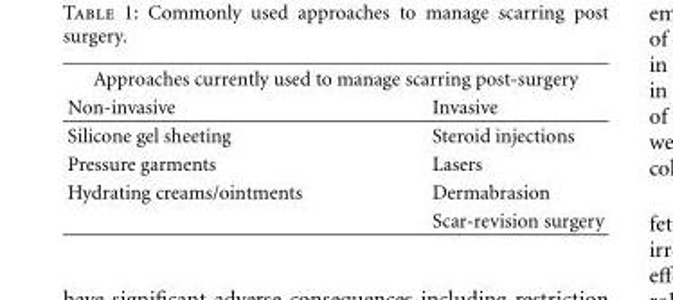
<table><thead><tr><td colspan="2">Approaches currently used to manage scarring post-surgery</td></tr><tr><td>Non-invasive</td><td>Invasive</td></tr></thead><tbody><tr><td>Silicone gel sheeting</td><td>Steroid injections</td></tr><tr><td>Pressure garments</td><td>Lasers</td></tr><tr><td rowspan="2">Hydrating creams/ointments</td><td>Dermabrasion</td></tr><tr><td>Scar-revision surgery</td></tr></tbody></table>